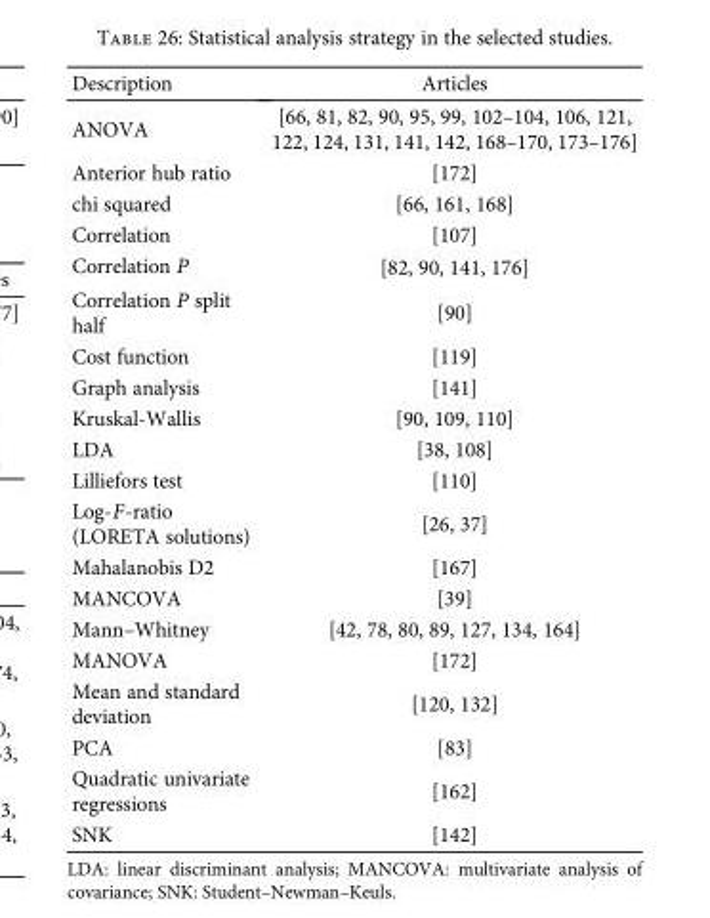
<table><thead><tr><td>Description</td><td>Articles</td></tr></thead><tbody><tr><td>ANOVA</td><td>[66, 81, 82, 90, 95, 99, 102–104, 106, 121, 122, 124, 131, 141, 142, 168–170, 173–176]</td></tr><tr><td>Anterior hub ratio</td><td>[172]</td></tr><tr><td>chi squared</td><td>[66, 161, 168]</td></tr><tr><td>Correlation</td><td>[107]</td></tr><tr><td>Correlation P</td><td>[82, 90, 141, 176]</td></tr><tr><td>Correlation P split half</td><td>[90]</td></tr><tr><td>Cost function</td><td>[119]</td></tr><tr><td>Graph analysis</td><td>[141]</td></tr><tr><td>Kruskal-Wallis</td><td>[90, 109, 110]</td></tr><tr><td>LDA</td><td>[38, 108]</td></tr><tr><td>Lilliefors test</td><td>[110]</td></tr><tr><td>Log-F-ratio (LORETA solutions)</td><td>[26, 37]</td></tr><tr><td>Mahalanobis D2</td><td>[167]</td></tr><tr><td>MANCOVA</td><td>[39]</td></tr><tr><td>Mann–Whitney</td><td>[42, 78, 80, 89, 127, 134, 164]</td></tr><tr><td>MANOVA</td><td>[172]</td></tr><tr><td>Mean and standard deviation</td><td>[120, 132]</td></tr><tr><td>PCA</td><td>[83]</td></tr><tr><td>Quadratic univariate regressions</td><td>[162]</td></tr><tr><td>SNK</td><td>[142]</td></tr></tbody></table>